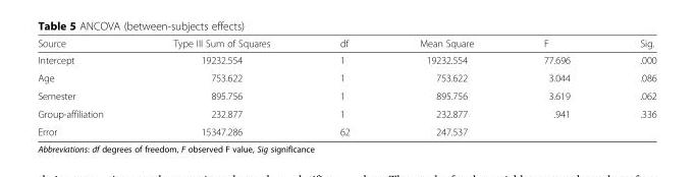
<table><thead><tr><td>Source</td><td>Type III Sum of Squares</td><td>df</td><td>Mean Square</td><td>F</td><td>Sig.</td></tr></thead><tbody><tr><td>Intercept</td><td>19232.554</td><td>1</td><td>19232.554</td><td>77.696</td><td>.000</td></tr><tr><td>Age</td><td>753.622</td><td>1</td><td>753.622</td><td>3.044</td><td>.086</td></tr><tr><td>Semester</td><td>895.756</td><td>1</td><td>895.756</td><td>3.619</td><td>.062</td></tr><tr><td>Group-affiliation</td><td>232.877</td><td>1</td><td>232.877</td><td>.941</td><td>.336</td></tr><tr><td>Error</td><td>15347.286</td><td>62</td><td>247.537</td><td></td><td></td></tr></tbody></table>